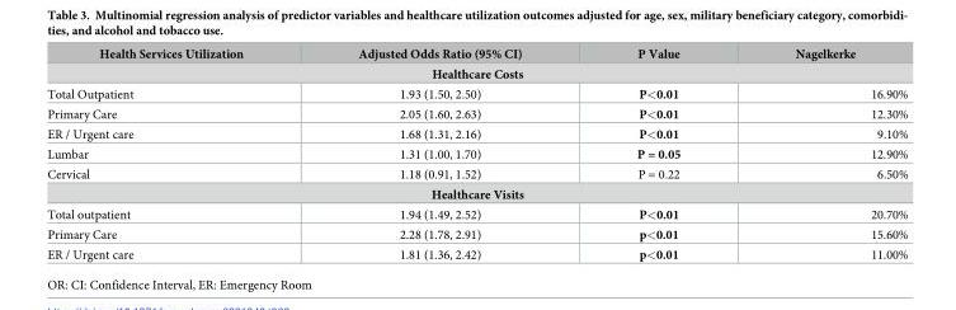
<table><thead><tr><td>Health Services Utilization</td><td>Adjusted Odds Ratio (95% CI)</td><td>P Value</td><td>Nagelkerke</td></tr></thead><tbody><tr><td colspan="4">Healthcare Costs</td></tr><tr><td>Total Outpatient</td><td>1.93 (1.50, 2.50)</td><td>P&lt;0.01</td><td>16.90%</td></tr><tr><td>Primary Care</td><td>2.05 (1.60, 2.63)</td><td>P&lt;0.01</td><td>12.30%</td></tr><tr><td>ER / Urgent care</td><td>1.68 (1.31, 2.16)</td><td>P&lt;0.01</td><td>9.10%</td></tr><tr><td>Lumbar</td><td>1.31 (1.00, 1.70)</td><td>P = 0.05</td><td>12.90%</td></tr><tr><td>Cervical</td><td>1.18 (0.91, 1.52)</td><td>P = 0.22</td><td>6.50%</td></tr><tr><td colspan="4">Healthcare Visits</td></tr><tr><td>Total outpatient</td><td>1.94 (1.49, 2.52)</td><td>P&lt;0.01</td><td>20.70%</td></tr><tr><td>Primary Care</td><td>2.28 (1.78, 2.91)</td><td>p&lt;0.01</td><td>15.60%</td></tr><tr><td>ER / Urgent care</td><td>1.81 (1.36, 2.42)</td><td>p&lt;0.01</td><td>11.00%</td></tr></tbody></table>